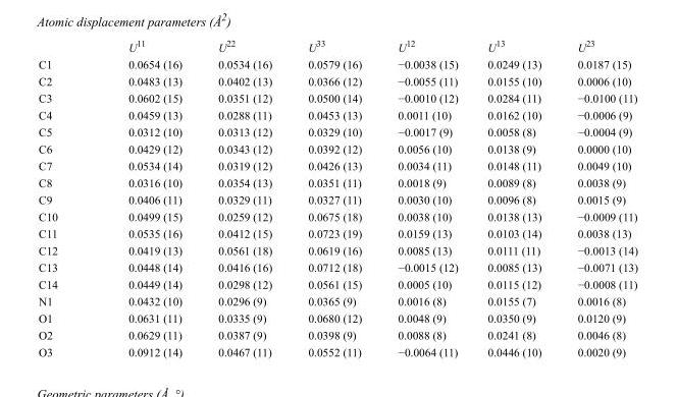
<table><thead><tr><td></td><td>U<sup>11</sup></td><td>U<sup>22</sup></td><td>U<sup>33</sup></td><td>U<sup>12</sup></td><td>U<sup>13</sup></td><td>U<sup>23</sup></td></tr></thead><tbody><tr><td>C1</td><td>0.0654 (16)</td><td>0.0534 (16)</td><td>0.0579 (16)</td><td>−0.0038 (15)</td><td>0.0249 (13)</td><td>0.0187 (15)</td></tr><tr><td>C2</td><td>0.0483 (13)</td><td>0.0402 (13)</td><td>0.0366 (12)</td><td>−0.0055 (11)</td><td>0.0155 (10)</td><td>0.0006 (10)</td></tr><tr><td>C3</td><td>0.0602 (15)</td><td>0.0351 (12)</td><td>0.0500 (14)</td><td>−0.0010 (12)</td><td>0.0284 (11)</td><td>−0.0100 (11)</td></tr><tr><td>C4</td><td>0.0459 (13)</td><td>0.0288 (11)</td><td>0.0453 (13)</td><td>0.0011 (10)</td><td>0.0162 (10)</td><td>−0.0006 (9)</td></tr><tr><td>C5</td><td>0.0312 (10)</td><td>0.0313 (12)</td><td>0.0329 (10)</td><td>−0.0017 (9)</td><td>0.0058 (8)</td><td>−0.0004 (9)</td></tr><tr><td>C6</td><td>0.0429 (12)</td><td>0.0343 (12)</td><td>0.0392 (12)</td><td>0.0056 (10)</td><td>0.0138 (9)</td><td>0.0000 (10)</td></tr><tr><td>C7</td><td>0.0534 (14)</td><td>0.0319 (12)</td><td>0.0426 (13)</td><td>0.0034 (11)</td><td>0.0148 (11)</td><td>0.0049 (10)</td></tr><tr><td>C8</td><td>0.0316 (10)</td><td>0.0354 (13)</td><td>0.0351 (11)</td><td>0.0018 (9)</td><td>0.0089 (8)</td><td>0.0038 (9)</td></tr><tr><td>C9</td><td>0.0406 (11)</td><td>0.0329 (11)</td><td>0.0327 (11)</td><td>0.0030 (10)</td><td>0.0096 (8)</td><td>0.0015 (9)</td></tr><tr><td>C10</td><td>0.0499 (15)</td><td>0.0259 (12)</td><td>0.0675 (18)</td><td>0.0038 (10)</td><td>0.0138 (13)</td><td>−0.0009 (11)</td></tr><tr><td>C11</td><td>0.0535 (16)</td><td>0.0412 (15)</td><td>0.0723 (19)</td><td>0.0159 (13)</td><td>0.0103 (14)</td><td>0.0038 (13)</td></tr><tr><td>C12</td><td>0.0419 (13)</td><td>0.0561 (18)</td><td>0.0619 (16)</td><td>0.0085 (13)</td><td>0.0111 (11)</td><td>−0.0013 (14)</td></tr><tr><td>C13</td><td>0.0448 (14)</td><td>0.0416 (16)</td><td>0.0712 (18)</td><td>−0.0015 (12)</td><td>0.0085 (13)</td><td>−0.0071 (13)</td></tr><tr><td>C14</td><td>0.0449 (14)</td><td>0.0298 (12)</td><td>0.0561 (15)</td><td>0.0005 (10)</td><td>0.0115 (12)</td><td>−0.0008 (11)</td></tr><tr><td>N1</td><td>0.0432 (10)</td><td>0.0296 (9)</td><td>0.0365 (9)</td><td>0.0016 (8)</td><td>0.0155 (7)</td><td>0.0016 (8)</td></tr><tr><td>O1</td><td>0.0631 (11)</td><td>0.0335 (9)</td><td>0.0680 (12)</td><td>0.0048 (9)</td><td>0.0350 (9)</td><td>0.0120 (9)</td></tr><tr><td>O2</td><td>0.0629 (11)</td><td>0.0387 (9)</td><td>0.0398 (9)</td><td>0.0088 (8)</td><td>0.0241 (8)</td><td>0.0046 (8)</td></tr><tr><td>O3</td><td>0.0912 (14)</td><td>0.0467 (11)</td><td>0.0552 (11)</td><td>−0.0064 (11)</td><td>0.0446 (10)</td><td>0.0020 (9)</td></tr></tbody></table>